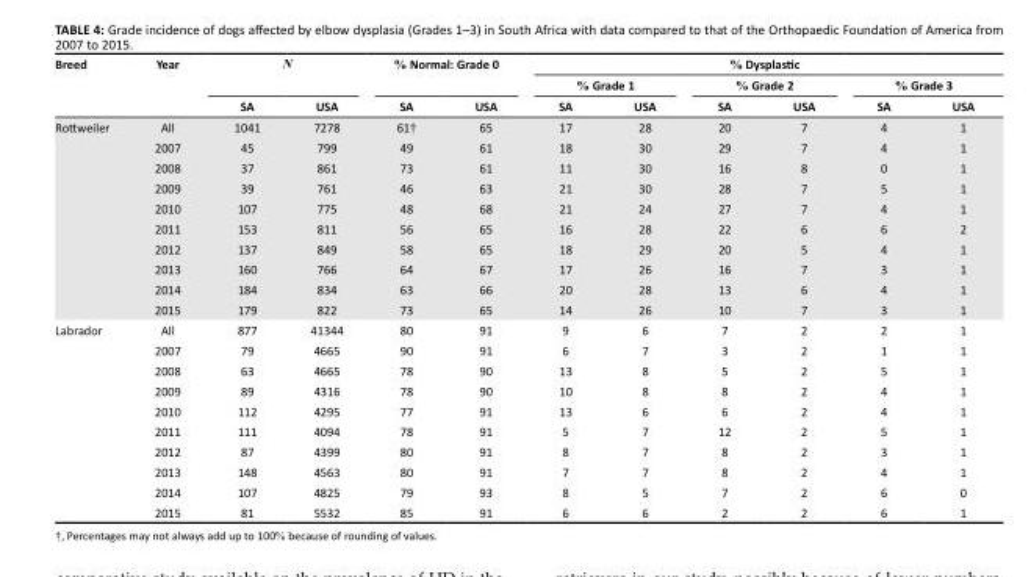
<table><thead><tr><td rowspan="3">Breed</td><td rowspan="3">Year</td><td rowspan="2" colspan="2">N</td><td rowspan="2" colspan="2">% Normal: Grade 0</td><td colspan="6">% Dysplastic</td></tr><tr><td colspan="2">% Grade 1</td><td colspan="2">% Grade 2</td><td colspan="2">% Grade 3</td></tr><tr><td>SA</td><td>USA</td><td>SA</td><td>USA</td><td>SA</td><td>USA</td><td>SA</td><td>USA</td><td>SA</td><td>USA</td></tr></thead><tbody><tr><td rowspan="10">Rottweiler</td><td>All</td><td>1041</td><td>7278</td><td>61†</td><td>65</td><td>17</td><td>28</td><td>20</td><td>7</td><td>4</td><td>1</td></tr><tr><td>2007</td><td>45</td><td>799</td><td>49</td><td>61</td><td>18</td><td>30</td><td>29</td><td>7</td><td>4</td><td>1</td></tr><tr><td>2008</td><td>37</td><td>861</td><td>73</td><td>61</td><td>11</td><td>30</td><td>16</td><td>8</td><td>0</td><td>1</td></tr><tr><td>2009</td><td>39</td><td>761</td><td>46</td><td>63</td><td>21</td><td>30</td><td>28</td><td>7</td><td>5</td><td>1</td></tr><tr><td>2010</td><td>107</td><td>775</td><td>48</td><td>68</td><td>21</td><td>24</td><td>27</td><td>7</td><td>4</td><td>1</td></tr><tr><td>2011</td><td>153</td><td>811</td><td>56</td><td>65</td><td>16</td><td>28</td><td>22</td><td>6</td><td>6</td><td>2</td></tr><tr><td>2012</td><td>137</td><td>849</td><td>58</td><td>65</td><td>18</td><td>29</td><td>20</td><td>5</td><td>4</td><td>1</td></tr><tr><td>2013</td><td>160</td><td>766</td><td>64</td><td>67</td><td>17</td><td>26</td><td>16</td><td>7</td><td>3</td><td>1</td></tr><tr><td>2014</td><td>184</td><td>834</td><td>63</td><td>66</td><td>20</td><td>28</td><td>13</td><td>6</td><td>4</td><td>1</td></tr><tr><td>2015</td><td>179</td><td>822</td><td>73</td><td>65</td><td>14</td><td>26</td><td>10</td><td>7</td><td>3</td><td>1</td></tr><tr><td rowspan="10">Labrador</td><td>All</td><td>877</td><td>41344</td><td>80</td><td>91</td><td>9</td><td>6</td><td>7</td><td>2</td><td>2</td><td>1</td></tr><tr><td>2007</td><td>79</td><td>4665</td><td>90</td><td>91</td><td>6</td><td>7</td><td>3</td><td>2</td><td>1</td><td>1</td></tr><tr><td>2008</td><td>63</td><td>4665</td><td>78</td><td>90</td><td>13</td><td>8</td><td>5</td><td>2</td><td>5</td><td>1</td></tr><tr><td>2009</td><td>89</td><td>4316</td><td>78</td><td>90</td><td>10</td><td>8</td><td>8</td><td>2</td><td>4</td><td>1</td></tr><tr><td>2010</td><td>112</td><td>4295</td><td>77</td><td>91</td><td>13</td><td>6</td><td>6</td><td>2</td><td>4</td><td>1</td></tr><tr><td>2011</td><td>111</td><td>4094</td><td>78</td><td>91</td><td>5</td><td>7</td><td>12</td><td>2</td><td>5</td><td>1</td></tr><tr><td>2012</td><td>87</td><td>4399</td><td>80</td><td>91</td><td>8</td><td>7</td><td>8</td><td>2</td><td>3</td><td>1</td></tr><tr><td>2013</td><td>148</td><td>4563</td><td>80</td><td>91</td><td>7</td><td>7</td><td>8</td><td>2</td><td>4</td><td>1</td></tr><tr><td>2014</td><td>107</td><td>4825</td><td>79</td><td>93</td><td>8</td><td>5</td><td>7</td><td>2</td><td>6</td><td>0</td></tr><tr><td>2015</td><td>81</td><td>5532</td><td>85</td><td>91</td><td>6</td><td>6</td><td>2</td><td>2</td><td>6</td><td>1</td></tr></tbody></table>